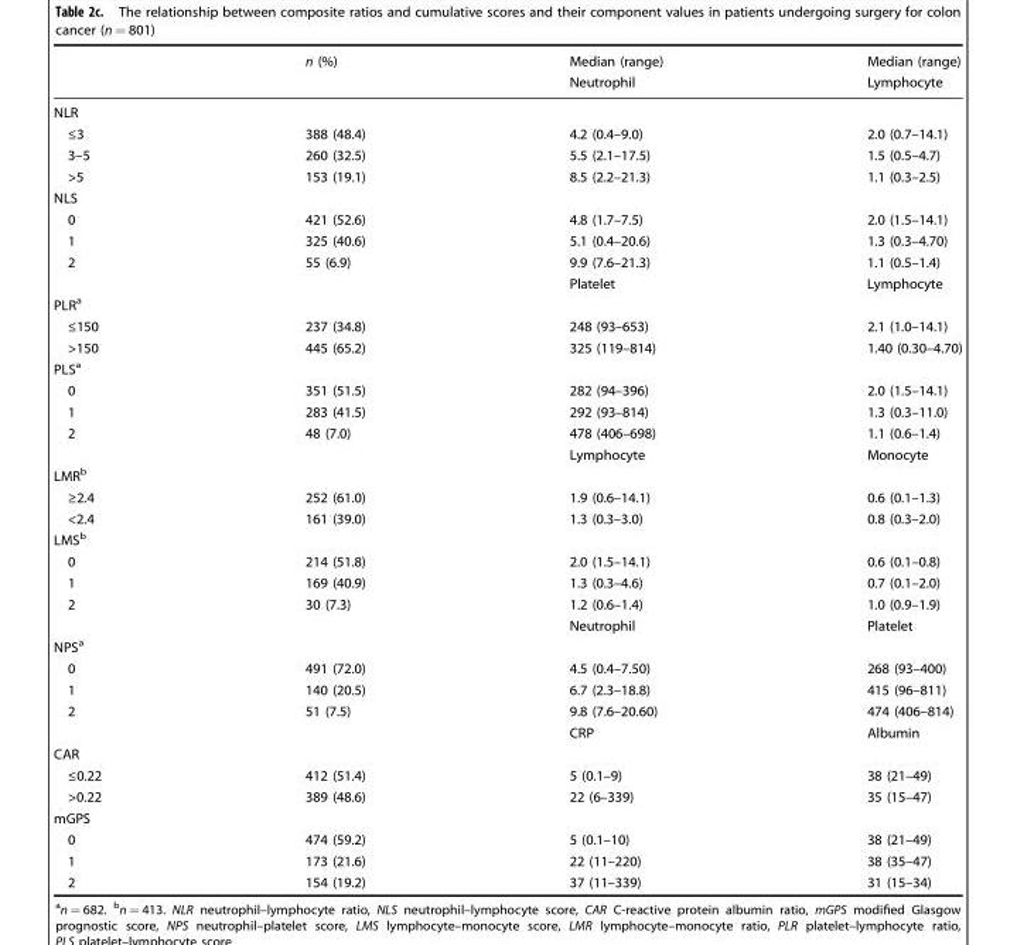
<table><thead><tr><td rowspan="2"></td><td rowspan="2">n (%)</td><td rowspan="2">Median (range) Neutrophil</td><td rowspan="2">Median (range) Lymphocyte</td></tr><tr></tr></thead><tbody><tr><td colspan="4">NLR</td></tr><tr><td>≤3</td><td>388 (48.4)</td><td>4.2 (0.4–9.0)</td><td>2.0 (0.7–14.1)</td></tr><tr><td>3–5</td><td>260 (32.5)</td><td>5.5 (2.1–17.5)</td><td>1.5 (0.5–4.7)</td></tr><tr><td>&gt;5</td><td>153 (19.1)</td><td>8.5 (2.2–21.3)</td><td>1.1 (0.3–2.5)</td></tr><tr><td colspan="4">NLS</td></tr><tr><td>0</td><td>421 (52.6)</td><td>4.8 (1.7–7.5)</td><td>2.0 (1.5–14.1)</td></tr><tr><td>1</td><td>325 (40.6)</td><td>5.1 (0.4–20.6)</td><td>1.3 (0.3–4.70)</td></tr><tr><td rowspan="2">2</td><td>55 (6.9)</td><td>9.9 (7.6–21.3)</td><td>1.1 (0.5–1.4)</td></tr><tr><td></td><td>Platelet</td><td>Lymphocyte</td></tr><tr><td colspan="4">PLR<sup>a</sup></td></tr><tr><td>≤150</td><td>237 (34.8)</td><td>248 (93–653)</td><td>2.1 (1.0–14.1)</td></tr><tr><td>&gt;150</td><td>445 (65.2)</td><td>325 (119–814)</td><td>1.40 (0.30–4.70)</td></tr><tr><td colspan="4">PLS<sup>a</sup></td></tr><tr><td>0</td><td>351 (51.5)</td><td>282 (94–396)</td><td>2.0 (1.5–14.1)</td></tr><tr><td>1</td><td>283 (41.5)</td><td>292 (93–814)</td><td>1.3 (0.3–11.0)</td></tr><tr><td rowspan="2">2</td><td>48 (7.0)</td><td>478 (406–698)</td><td>1.1 (0.6–1.4)</td></tr><tr><td></td><td>Lymphocyte</td><td>Monocyte</td></tr><tr><td colspan="4">LMR<sup>b</sup></td></tr><tr><td>≥2.4</td><td>252 (61.0)</td><td>1.9 (0.6–14.1)</td><td>0.6 (0.1–1.3)</td></tr><tr><td>&lt;2.4</td><td>161 (39.0)</td><td>1.3 (0.3–3.0)</td><td>0.8 (0.3–2.0)</td></tr><tr><td colspan="4">LMS<sup>b</sup></td></tr><tr><td>0</td><td>214 (51.8)</td><td>2.0 (1.5–14.1)</td><td>0.6 (0.1–0.8)</td></tr><tr><td>1</td><td>169 (40.9)</td><td>1.3 (0.3–4.6)</td><td>0.7 (0.1–2.0)</td></tr><tr><td rowspan="2">2</td><td>30 (7.3)</td><td>1.2 (0.6–1.4)</td><td>1.0 (0.9–1.9)</td></tr><tr><td></td><td>Neutrophil</td><td>Platelet</td></tr><tr><td colspan="4">NPS<sup>a</sup></td></tr><tr><td>0</td><td>491 (72.0)</td><td>4.5 (0.4–7.50)</td><td>268 (93–400)</td></tr><tr><td>1</td><td>140 (20.5)</td><td>6.7 (2.3–18.8)</td><td>415 (96–811)</td></tr><tr><td rowspan="2">2</td><td>51 (7.5)</td><td>9.8 (7.6–20.60)</td><td>474 (406–814)</td></tr><tr><td></td><td>CRP</td><td>Albumin</td></tr><tr><td colspan="4">CAR</td></tr><tr><td>≤0.22</td><td>412 (51.4)</td><td>5 (0.1–9)</td><td>38 (21–49)</td></tr><tr><td>&gt;0.22</td><td>389 (48.6)</td><td>22 (6–339)</td><td>35 (15–47)</td></tr><tr><td colspan="4">mGPS</td></tr><tr><td>0</td><td>474 (59.2)</td><td>5 (0.1–10)</td><td>38 (21–49)</td></tr><tr><td>1</td><td>173 (21.6)</td><td>22 (11–220)</td><td>38 (35–47)</td></tr><tr><td>2</td><td>154 (19.2)</td><td>37 (11–339)</td><td>31 (15–34)</td></tr></tbody></table>